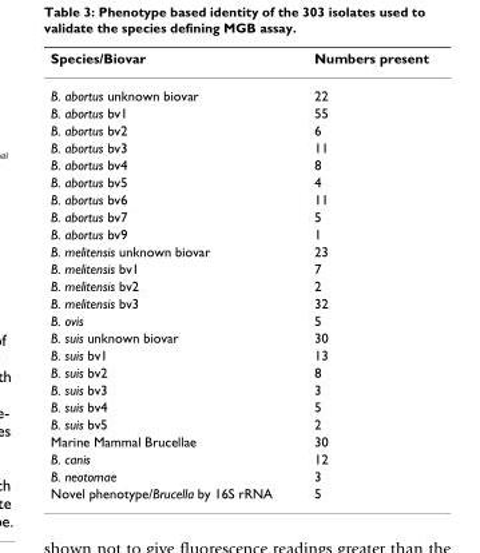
<table><thead><tr><td>Species/Biovar</td><td>Numbers present</td></tr></thead><tbody><tr><td>B. abortus unknown biovar</td><td>22</td></tr><tr><td>B. abortus bv1</td><td>55</td></tr><tr><td>B. abortus bv2</td><td>6</td></tr><tr><td>B. abortus bv3</td><td>11</td></tr><tr><td>B. abortus bv4</td><td>8</td></tr><tr><td>B. abortus bv5</td><td>4</td></tr><tr><td>B. abortus bv6</td><td>11</td></tr><tr><td>B. abortus bv7</td><td>5</td></tr><tr><td>B. abortus bv9</td><td>1</td></tr><tr><td>B. melitensis unknown biovar</td><td>23</td></tr><tr><td>B. melitensis bv1</td><td>7</td></tr><tr><td>B. melitensis bv2</td><td>2</td></tr><tr><td>B. melitensis bv3</td><td>32</td></tr><tr><td>B. ovis</td><td>5</td></tr><tr><td>B. suis unknown biovar</td><td>30</td></tr><tr><td>B. suis bv1</td><td>13</td></tr><tr><td>B. suis bv2</td><td>8</td></tr><tr><td>B. suis bv3</td><td>3</td></tr><tr><td>B. suis bv4</td><td>5</td></tr><tr><td>B. suis bv5</td><td>2</td></tr><tr><td>Marine Mammal Brucellae</td><td>30</td></tr><tr><td>B. canis</td><td>12</td></tr><tr><td>B. neotomae</td><td>3</td></tr><tr><td>Novel phenotype/Brucella by 16S rRNA</td><td>5</td></tr></tbody></table>